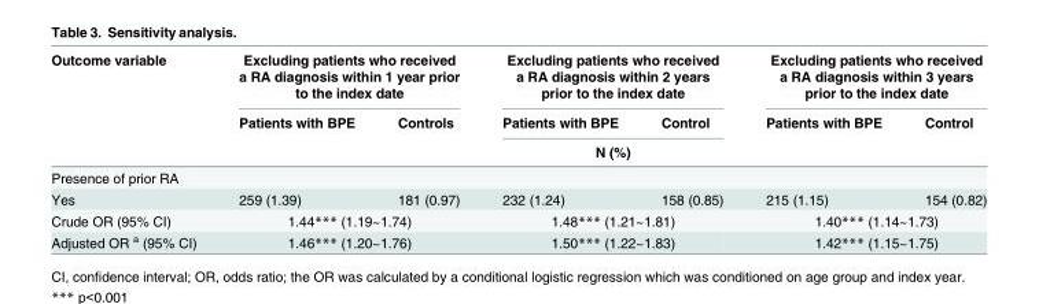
<table><thead><tr><td rowspan="3">Outcome variable</td><td colspan="2">Excluding patients who received a RA diagnosis within 1 year prior to the index date</td><td colspan="2">Excluding patients who received a RA diagnosis within 2 years prior to the index date</td><td colspan="2">Excluding patients who received a RA diagnosis within 3 years prior to the index date</td></tr><tr><td>Patients with BPE</td><td>Controls</td><td>Patients with BPE</td><td>Control</td><td>Patients with BPE</td><td>Control</td></tr><tr><td colspan="6">N (%)</td></tr></thead><tbody><tr><td colspan="7">Presence of prior RA</td></tr><tr><td>Yes</td><td>259 (1.39)</td><td>181 (0.97)</td><td>232 (1.24)</td><td>158 (0.85)</td><td>215 (1.15)</td><td>154 (0.82)</td></tr><tr><td>Crude OR (95% CI)</td><td colspan="2">1.44*** (1.19~1.74)</td><td colspan="2">1.48*** (1.21~1.81)</td><td colspan="2">1.40*** (1.14~1.73)</td></tr><tr><td>Adjusted OR <sup>a</sup> (95% CI)</td><td colspan="2">1.46*** (1.20~1.76)</td><td colspan="2">1.50*** (1.22~1.83)</td><td colspan="2">1.42*** (1.15~1.75)</td></tr></tbody></table>